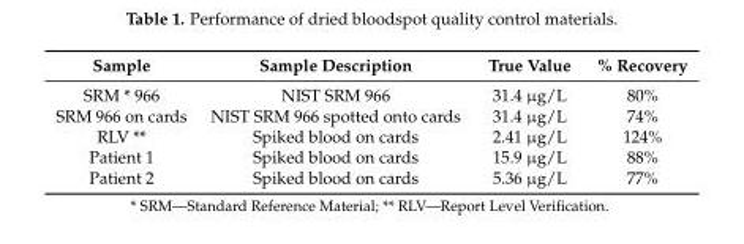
<table><thead><tr><td>Sample</td><td>Sample Description</td><td>True Value</td><td>% Recovery</td></tr></thead><tbody><tr><td>SRM * 966</td><td>NIST SRM 966</td><td>31.4 µg/L</td><td>80%</td></tr><tr><td>SRM 966 on cards</td><td>NIST SRM 966 spotted onto cards</td><td>31.4 µg/L</td><td>74%</td></tr><tr><td>RLV **</td><td>Spiked blood on cards</td><td>2.41 µg/L</td><td>124%</td></tr><tr><td>Patient 1</td><td>Spiked blood on cards</td><td>15.9 µg/L</td><td>88%</td></tr><tr><td>Patient 2</td><td>Spiked blood on cards</td><td>5.36 µg/L</td><td>77%</td></tr></tbody></table>